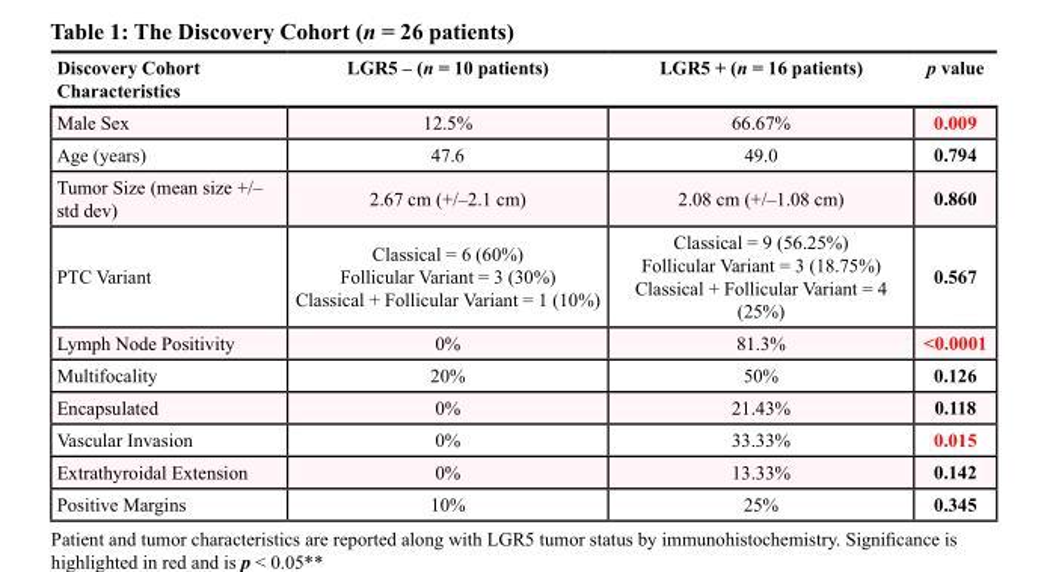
<table><thead><tr><td>Discovery Cohort Characteristics</td><td>LGR5 – (n = 10 patients)</td><td>LGR5 + (n = 16 patients)</td><td>p value</td></tr></thead><tbody><tr><td>Male Sex</td><td>12.5%</td><td>66.67%</td><td>0.009</td></tr><tr><td>Age (years)</td><td>47.6</td><td>49.0</td><td>0.794</td></tr><tr><td>Tumor Size (mean size +/– std dev)</td><td>2.67 cm (+/–2.1 cm)</td><td>2.08 cm (+/–1.08 cm)</td><td>0.860</td></tr><tr><td>PTC Variant</td><td>Classical = 6 (60%) Follicular Variant = 3 (30%) Classical + Follicular Variant = 1 (10%)</td><td>Classical = 9 (56.25%) Follicular Variant = 3 (18.75%) Classical + Follicular Variant = 4 (25%)</td><td>0.567</td></tr><tr><td>Lymph Node Positivity</td><td>0%</td><td>81.3%</td><td>&lt;0.0001</td></tr><tr><td>Multifocality</td><td>20%</td><td>50%</td><td>0.126</td></tr><tr><td>Encapsulated</td><td>0%</td><td>21.43%</td><td>0.118</td></tr><tr><td>Vascular Invasion</td><td>0%</td><td>33.33%</td><td>0.015</td></tr><tr><td>Extrathyroidal Extension</td><td>0%</td><td>13.33%</td><td>0.142</td></tr><tr><td>Positive Margins</td><td>10%</td><td>25%</td><td>0.345</td></tr></tbody></table>